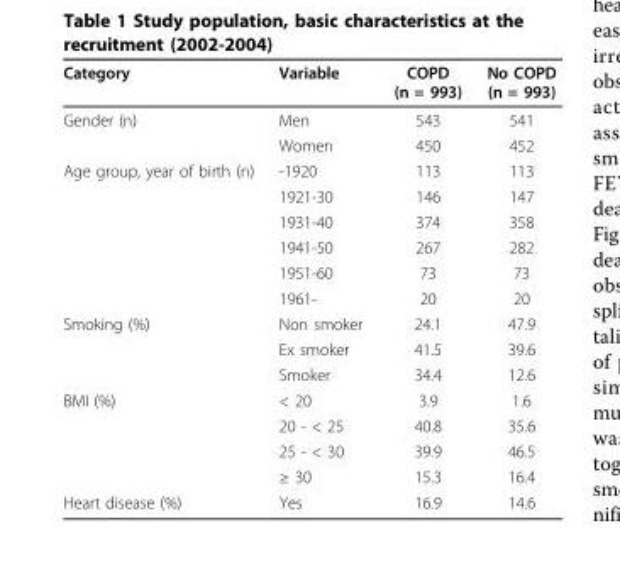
<table><thead><tr><td>Category</td><td>Variable</td><td>COPD (n = 993)</td><td>No COPD (n = 993)</td></tr></thead><tbody><tr><td rowspan="2">Gender (n)</td><td>Men</td><td>543</td><td>541</td></tr><tr><td>Women</td><td>450</td><td>452</td></tr><tr><td rowspan="6">Age group, year of birth (n)</td><td>-1920</td><td>113</td><td>113</td></tr><tr><td>1921-30</td><td>146</td><td>147</td></tr><tr><td>1931-40</td><td>374</td><td>358</td></tr><tr><td>1941-50</td><td>267</td><td>282</td></tr><tr><td>1951-60</td><td>73</td><td>73</td></tr><tr><td>1961-</td><td>20</td><td>20</td></tr><tr><td rowspan="3">Smoking (%)</td><td>Non smoker</td><td>24.1</td><td>47.9</td></tr><tr><td>Ex smoker</td><td>41.5</td><td>39.6</td></tr><tr><td>Smoker</td><td>34.4</td><td>12.6</td></tr><tr><td rowspan="4">BMI (%)</td><td>&lt; 20</td><td>3.9</td><td>1.6</td></tr><tr><td>20 - &lt; 25</td><td>40.8</td><td>35.6</td></tr><tr><td>25 - &lt; 30</td><td>39.9</td><td>46.5</td></tr><tr><td>≥ 30</td><td>15.3</td><td>16.4</td></tr><tr><td>Heart disease (%)</td><td>Yes</td><td>16.9</td><td>14.6</td></tr></tbody></table>